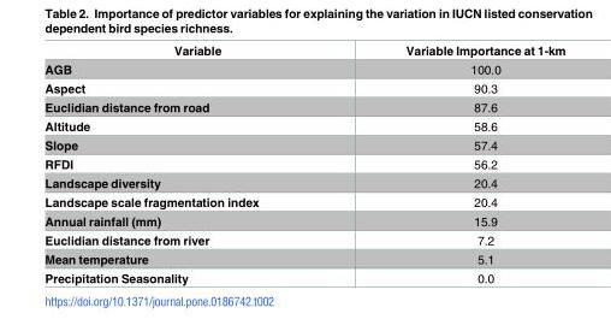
<table><thead><tr><td>Variable</td><td>Variable Importance at 1-km</td></tr></thead><tbody><tr><td>AGB</td><td>100.0</td></tr><tr><td>Aspect</td><td>90.3</td></tr><tr><td>Euclidian distance from road</td><td>87.6</td></tr><tr><td>Altitude</td><td>58.6</td></tr><tr><td>Slope</td><td>57.4</td></tr><tr><td>RFDI</td><td>56.2</td></tr><tr><td>Landscape diversity</td><td>20.4</td></tr><tr><td>Landscape scale fragmentation index</td><td>20.4</td></tr><tr><td>Annual rainfall (mm)</td><td>15.9</td></tr><tr><td>Euclidian distance from river</td><td>7.2</td></tr><tr><td>Mean temperature</td><td>5.1</td></tr><tr><td>Precipitation Seasonality</td><td>0.0</td></tr></tbody></table>